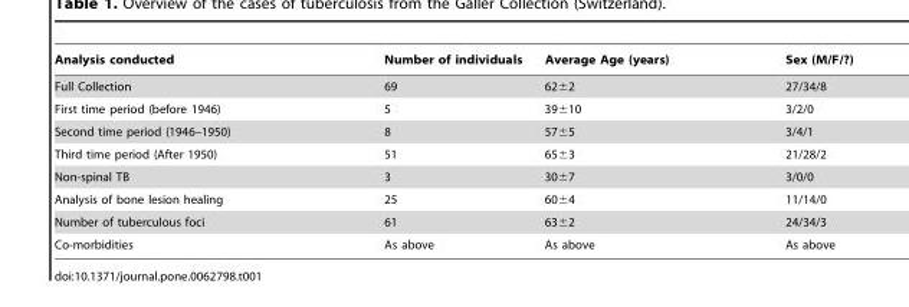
<table><thead><tr><td>Analysis conducted</td><td>Number of individuals</td><td>Average Age (years)</td><td>Sex (M/F/?)</td></tr></thead><tbody><tr><td>Full Collection</td><td>69</td><td>62±2</td><td>27/34/8</td></tr><tr><td>First time period (before 1946)</td><td>5</td><td>39±10</td><td>3/2/0</td></tr><tr><td>Second time period (1946–1950)</td><td>8</td><td>57±5</td><td>3/4/1</td></tr><tr><td>Third time period (After 1950)</td><td>51</td><td>65±3</td><td>21/28/2</td></tr><tr><td>Non-spinal TB</td><td>3</td><td>30±7</td><td>3/0/0</td></tr><tr><td>Analysis of bone lesion healing</td><td>25</td><td>60±4</td><td>11/14/0</td></tr><tr><td>Number of tuberculous foci</td><td>61</td><td>63±2</td><td>24/34/3</td></tr><tr><td>Co-morbidities</td><td>As above</td><td>As above</td><td>As above</td></tr></tbody></table>